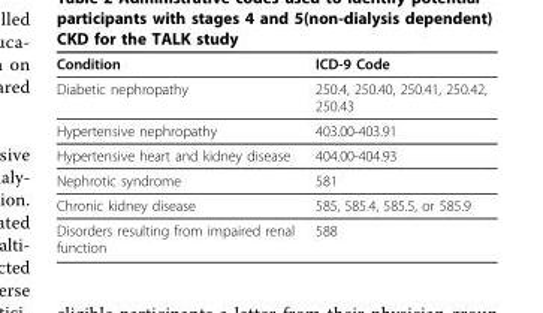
<table><thead><tr><td>Condition</td><td>ICD-9 Code</td></tr></thead><tbody><tr><td>Diabetic nephropathy</td><td>250.4, 250.40, 250.41, 250.42, 250.43</td></tr><tr><td>Hypertensive nephropathy</td><td>403.00-403.91</td></tr><tr><td>Hypertensive heart and kidney disease</td><td>404.00-404.93</td></tr><tr><td>Nephrotic syndrome</td><td>581</td></tr><tr><td>Chronic kidney disease</td><td>585, 585.4, 585.5, or 585.9</td></tr><tr><td>Disorders resulting from impaired renal function</td><td>588</td></tr></tbody></table>